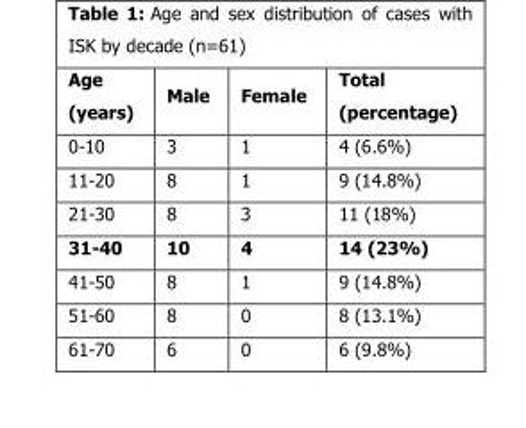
<table><thead><tr><td>Age (years)</td><td>Male</td><td>Female</td><td>Total (percentage)</td></tr></thead><tbody><tr><td>0-10</td><td>3</td><td>1</td><td>4 (6.6%)</td></tr><tr><td>11-20</td><td>8</td><td>1</td><td>9 (14.8%)</td></tr><tr><td>21-30</td><td>8</td><td>3</td><td>11 (18%)</td></tr><tr><td>31-40</td><td>10</td><td>4</td><td>14 (23%)</td></tr><tr><td>41-50</td><td>8</td><td>1</td><td>9 (14.8%)</td></tr><tr><td>51-60</td><td>8</td><td>0</td><td>8 (13.1%)</td></tr><tr><td>61-70</td><td>6</td><td>0</td><td>6 (9.8%)</td></tr></tbody></table>